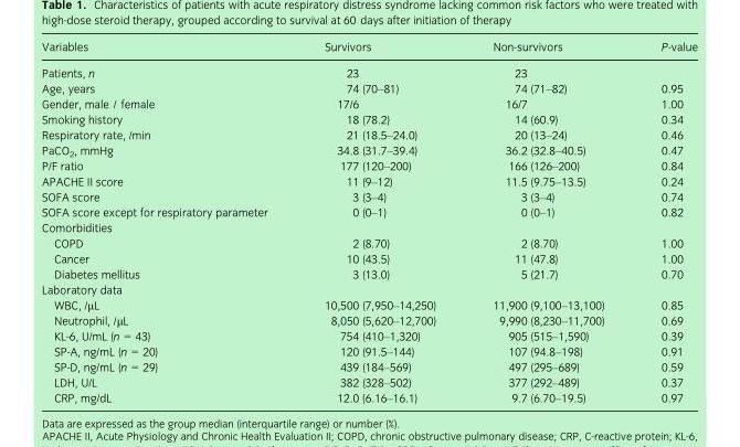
<table><thead><tr><td>Variables</td><td>Survivors</td><td>Non-survivors</td><td>P-value</td></tr></thead><tbody><tr><td>Patients, n</td><td>23</td><td>23</td><td></td></tr><tr><td>Age, years</td><td>74 (70–81)</td><td>74 (71–82)</td><td>0.95</td></tr><tr><td>Gender, male / female</td><td>17/6</td><td>16/7</td><td>1.00</td></tr><tr><td>Smoking history</td><td>18 (78.2)</td><td>14 (60.9)</td><td>0.34</td></tr><tr><td>Respiratory rate, /min</td><td>21 (18.5–24.0)</td><td>20 (13–24)</td><td>0.46</td></tr><tr><td>PaCO<sub>2</sub>, mmHg</td><td>34.8 (31.7–39.4)</td><td>36.2 (32.8–40.5)</td><td>0.47</td></tr><tr><td>P/F ratio</td><td>177 (120–200)</td><td>166 (126–200)</td><td>0.84</td></tr><tr><td>APACHE II score</td><td>11 (9–12)</td><td>11.5 (9.75–13.5)</td><td>0.24</td></tr><tr><td>SOFA score</td><td>3 (3–4)</td><td>3 (3–4)</td><td>0.74</td></tr><tr><td>SOFA score except for respiratory parameter</td><td>0 (0–1)</td><td>0 (0–1)</td><td>0.82</td></tr><tr><td colspan="4">Comorbidities</td></tr><tr><td>COPD</td><td>2 (8.70)</td><td>2 (8.70)</td><td>1.00</td></tr><tr><td>Cancer</td><td>10 (43.5)</td><td>11 (47.8)</td><td>1.00</td></tr><tr><td>Diabetes mellitus</td><td>3 (13.0)</td><td>5 (21.7)</td><td>0.70</td></tr><tr><td colspan="4">Laboratory data</td></tr><tr><td>WBC, /μL</td><td>10,500 (7,950–14,250)</td><td>11,900 (9,100–13,100)</td><td>0.85</td></tr><tr><td>Neutrophil, /μL</td><td>8,050 (5,620–12,700)</td><td>9,990 (8,230–11,700)</td><td>0.69</td></tr><tr><td>KL-6, U/mL (n = 43)</td><td>754 (410–1,320)</td><td>905 (515–1,590)</td><td>0.39</td></tr><tr><td>SP-A, ng/mL (n = 20)</td><td>120 (91.5–144)</td><td>107 (94.8–198)</td><td>0.91</td></tr><tr><td>SP-D, ng/mL (n = 29)</td><td>439 (184–569)</td><td>497 (295–689)</td><td>0.59</td></tr><tr><td>LDH, U/L</td><td>382 (328–502)</td><td>377 (292–489)</td><td>0.37</td></tr><tr><td>CRP, mg/dL</td><td>12.0 (6.16–16.1)</td><td>9.7 (6.70–19.5)</td><td>0.97</td></tr></tbody></table>